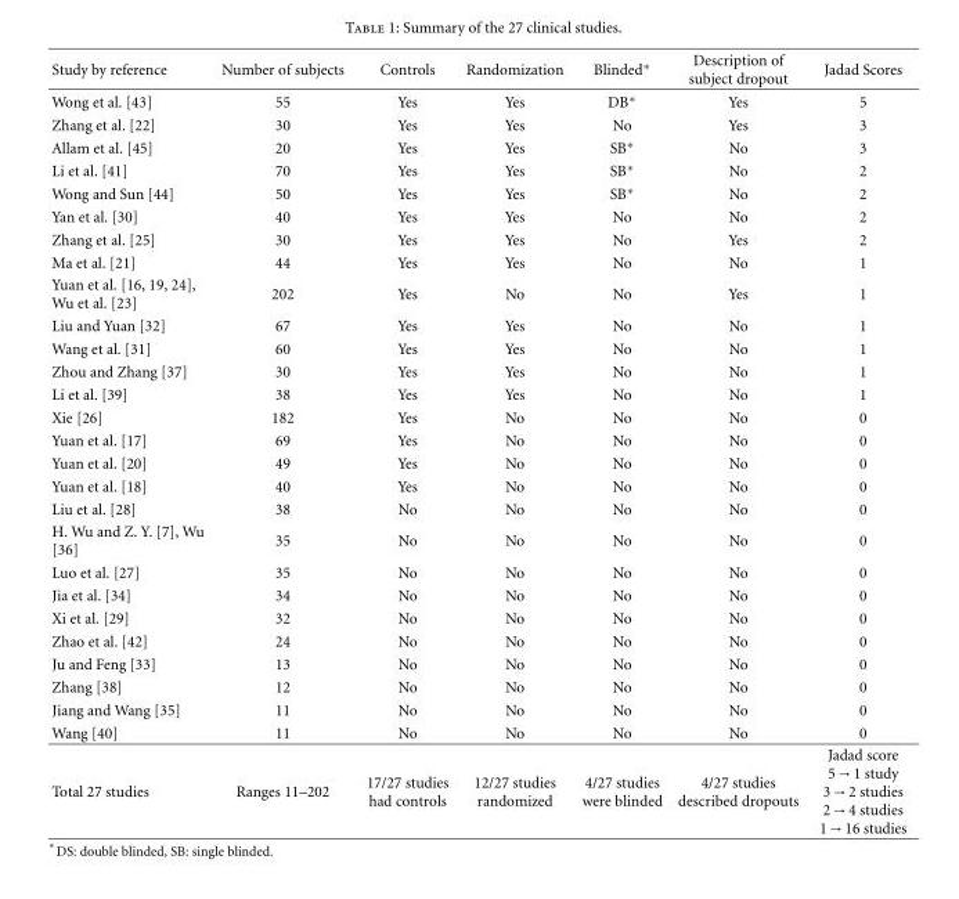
<table><thead><tr><td>Study by reference</td><td>Number of subjects</td><td>Controls</td><td>Randomization</td><td>Blinded∗</td><td>Description of subject dropout</td><td>Jadad Scores</td></tr></thead><tbody><tr><td>Wong et al. [43]</td><td>55</td><td>Yes</td><td>Yes</td><td>DB∗</td><td>Yes</td><td>5</td></tr><tr><td>Zhang et al. [22]</td><td>30</td><td>Yes</td><td>Yes</td><td>No</td><td>Yes</td><td>3</td></tr><tr><td>Allam et al. [45]</td><td>20</td><td>Yes</td><td>Yes</td><td>SB∗</td><td>No</td><td>3</td></tr><tr><td>Li et al. [41]</td><td>70</td><td>Yes</td><td>Yes</td><td>SB∗</td><td>No</td><td>2</td></tr><tr><td>Wong and Sun [44]</td><td>50</td><td>Yes</td><td>Yes</td><td>SB∗</td><td>No</td><td>2</td></tr><tr><td>Yan et al. [30]</td><td>40</td><td>Yes</td><td>Yes</td><td>No</td><td>No</td><td>2</td></tr><tr><td>Zhang et al. [25]</td><td>30</td><td>Yes</td><td>Yes</td><td>No</td><td>Yes</td><td>2</td></tr><tr><td>Ma et al. [21]</td><td>44</td><td>Yes</td><td>Yes</td><td>No</td><td>No</td><td>1</td></tr><tr><td>Yuan et al. [16, 19, 24], Wu et al. [23]</td><td>202</td><td>Yes</td><td>No</td><td>No</td><td>Yes</td><td>1</td></tr><tr><td>Liu and Yuan [32]</td><td>67</td><td>Yes</td><td>Yes</td><td>No</td><td>No</td><td>1</td></tr><tr><td>Wang et al. [31]</td><td>60</td><td>Yes</td><td>Yes</td><td>No</td><td>No</td><td>1</td></tr><tr><td>Zhou and Zhang [37]</td><td>30</td><td>Yes</td><td>Yes</td><td>No</td><td>No</td><td>1</td></tr><tr><td>Li et al. [39]</td><td>38</td><td>Yes</td><td>Yes</td><td>No</td><td>No</td><td>1</td></tr><tr><td>Xie [26]</td><td>182</td><td>Yes</td><td>No</td><td>No</td><td>No</td><td>0</td></tr><tr><td>Yuan et al. [17]</td><td>69</td><td>Yes</td><td>No</td><td>No</td><td>No</td><td>0</td></tr><tr><td>Yuan et al. [20]</td><td>49</td><td>Yes</td><td>No</td><td>No</td><td>No</td><td>0</td></tr><tr><td>Yuan et al. [18]</td><td>40</td><td>Yes</td><td>No</td><td>No</td><td>No</td><td>0</td></tr><tr><td>Liu et al. [28]</td><td>38</td><td>No</td><td>No</td><td>No</td><td>No</td><td>0</td></tr><tr><td>H. Wu and Z. Y. [7], Wu [36]</td><td>35</td><td>No</td><td>No</td><td>No</td><td>No</td><td>0</td></tr><tr><td>Luo et al. [27]</td><td>35</td><td>No</td><td>No</td><td>No</td><td>No</td><td>0</td></tr><tr><td>Jia et al. [34]</td><td>34</td><td>No</td><td>No</td><td>No</td><td>No</td><td>0</td></tr><tr><td>Xi et al. [29]</td><td>32</td><td>No</td><td>No</td><td>No</td><td>No</td><td>0</td></tr><tr><td>Zhao et al. [42]</td><td>24</td><td>No</td><td>No</td><td>No</td><td>No</td><td>0</td></tr><tr><td>Ju and Feng [33]</td><td>13</td><td>No</td><td>No</td><td>No</td><td>No</td><td>0</td></tr><tr><td>Zhang [38]</td><td>12</td><td>No</td><td>No</td><td>No</td><td>No</td><td>0</td></tr><tr><td>Jiang and Wang [35]</td><td>11</td><td>No</td><td>No</td><td>No</td><td>No</td><td>0</td></tr><tr><td>Wang [40]</td><td>11</td><td>No</td><td>No</td><td>No</td><td>No</td><td>0</td></tr><tr><td>Total 27 studies</td><td>Ranges 11–202</td><td>17/27 studies had controls</td><td>12/27 studies randomized</td><td>4/27 studies were blinded</td><td>4/27 studies described dropouts</td><td>Jadad score 5 →1 study 3 →2 studies 2 →4 studies 1 →16 studies</td></tr></tbody></table>